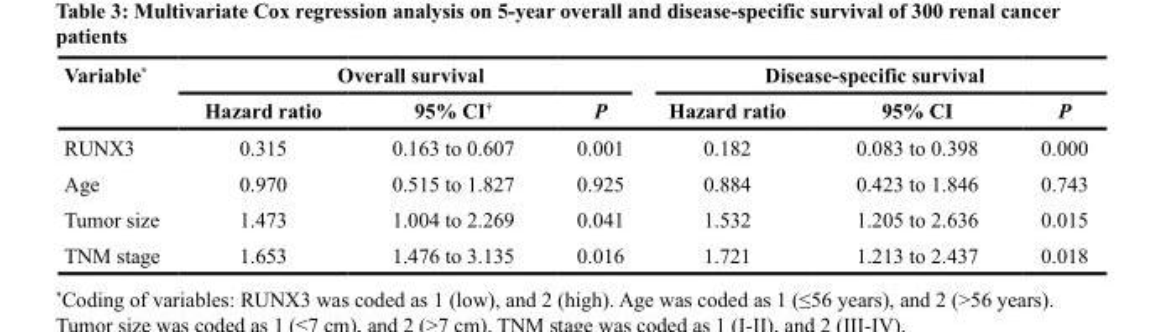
<table><thead><tr><td rowspan="2">Variable*</td><td colspan="3">Overall survival</td><td colspan="3">Disease-specific survival</td></tr><tr><td>Hazard ratio</td><td>95% CI<sup>†</sup></td><td>P</td><td>Hazard ratio</td><td>95% CI</td><td>P</td></tr></thead><tbody><tr><td>RUNX3</td><td>0.315</td><td>0.163 to 0.607</td><td>0.001</td><td>0.182</td><td>0.083 to 0.398</td><td>0.000</td></tr><tr><td>Age</td><td>0.970</td><td>0.515 to 1.827</td><td>0.925</td><td>0.884</td><td>0.423 to 1.846</td><td>0.743</td></tr><tr><td>Tumor size</td><td>1.473</td><td>1.004 to 2.269</td><td>0.041</td><td>1.532</td><td>1.205 to 2.636</td><td>0.015</td></tr><tr><td>TNM stage</td><td>1.653</td><td>1.476 to 3.135</td><td>0.016</td><td>1.721</td><td>1.213 to 2.437</td><td>0.018</td></tr></tbody></table>